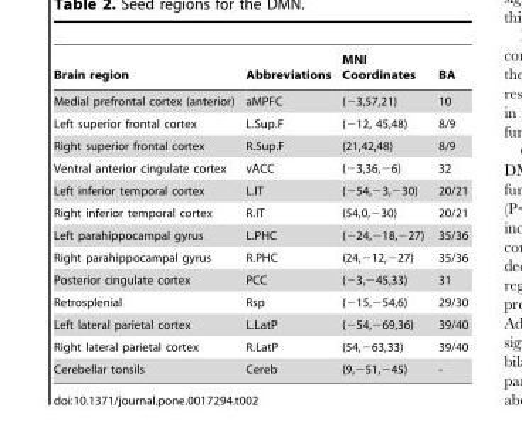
<table><thead><tr><td>Brain region</td><td>Abbreviations</td><td>MNI Coordinates</td><td>BA</td></tr></thead><tbody><tr><td>Medial prefrontal cortex (anterior)</td><td>aMPFC</td><td>(−3,57,21)</td><td>10</td></tr><tr><td>Left superior frontal cortex</td><td>L.Sup.F</td><td>(−12, 45,48)</td><td>8/9</td></tr><tr><td>Right superior frontal cortex</td><td>R.Sup.F</td><td>(21,42,48)</td><td>8/9</td></tr><tr><td>Ventral anterior cingulate cortex</td><td>vACC</td><td>(−3,36,−6)</td><td>32</td></tr><tr><td>Left inferior temporal cortex</td><td>L.IT</td><td>(−54,−3,−30)</td><td>20/21</td></tr><tr><td>Right inferior temporal cortex</td><td>R.IT</td><td>(54,0,−30)</td><td>20/21</td></tr><tr><td>Left parahippocampal gyrus</td><td>L.PHC</td><td>(−24,−18,−27)</td><td>35/36</td></tr><tr><td>Right parahippocampal gyrus</td><td>R.PHC</td><td>(24,−12,−27)</td><td>35/36</td></tr><tr><td>Posterior cingulate cortex</td><td>PCC</td><td>(−3,−45,33)</td><td>31</td></tr><tr><td>Retrosplenial</td><td>Rsp</td><td>(−15,−54,6)</td><td>29/30</td></tr><tr><td>Left lateral parietal cortex</td><td>L.LatP</td><td>(−54,−69,36)</td><td>39/40</td></tr><tr><td>Right lateral parietal cortex</td><td>R.LatP</td><td>(54,−63,33)</td><td>39/40</td></tr><tr><td>Cerebellar tonsils</td><td>Cereb</td><td>(9,−51,−45)</td><td>-</td></tr></tbody></table>